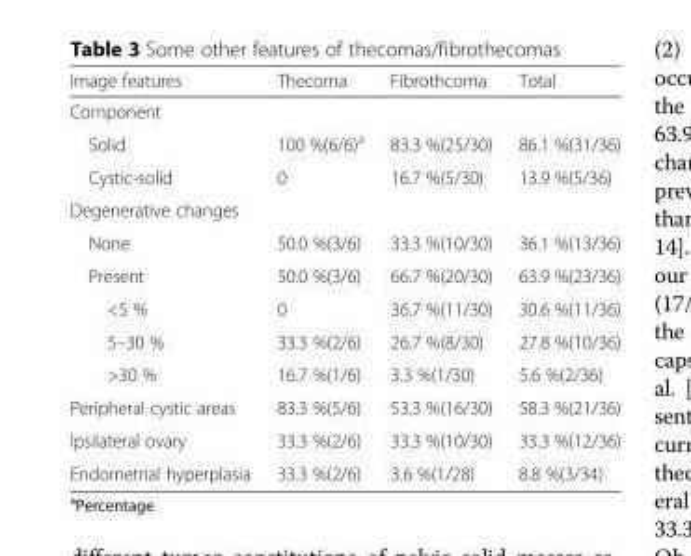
<table><thead><tr><td>Image features</td><td>Thecoma</td><td>Fibrothcoma</td><td>Total</td></tr></thead><tbody><tr><td colspan="4">Component</td></tr><tr><td>Solid</td><td>100 %(6/6)<sup>a</sup></td><td>83.3 %(25/30)</td><td>86.1 %(31/36)</td></tr><tr><td>Cystic-solid</td><td>0</td><td>16.7 %(5/30)</td><td>13.9 %(5/36)</td></tr><tr><td colspan="4">Degenerative changes</td></tr><tr><td>None</td><td>50.0 %(3/6)</td><td>33.3 %(10/30)</td><td>36.1 %(13/36)</td></tr><tr><td>Present</td><td>50.0 %(3/6)</td><td>66.7 %(20/30)</td><td>63.9 %(23/36)</td></tr><tr><td>&lt;5 %</td><td>0</td><td>36.7 %(11/30)</td><td>30.6 %(11/36)</td></tr><tr><td>5–30 %</td><td>33.3 %(2/6)</td><td>26.7 %(8/30)</td><td>27.8 %(10/36)</td></tr><tr><td>&gt;30 %</td><td>16.7 %(1/6)</td><td>3.3 %(1/30)</td><td>5.6 %(2/36)</td></tr><tr><td>Peripheral cystic areas</td><td>83.3 %(5/6)</td><td>53.3 %(16/30)</td><td>58.3 %(21/36)</td></tr><tr><td>Ipsilateral ovary</td><td>33.3 %(2/6)</td><td>33.3 %(10/30)</td><td>33.3 %(12/36)</td></tr><tr><td>Endometrial hyperplasia</td><td>33.3 %(2/6)</td><td>3.6 %(1/28)</td><td>8.8 %(3/34)</td></tr></tbody></table>